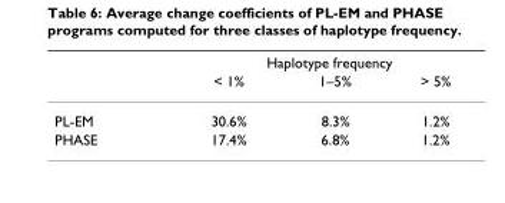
<table><thead><tr><td rowspan="2"></td><td colspan="3">Haplotype frequency</td></tr><tr><td>&lt; 1%</td><td>1–5%</td><td>&gt; 5%</td></tr></thead><tbody><tr><td>PL-EM</td><td>30.6%</td><td>8.3%</td><td>1.2%</td></tr><tr><td>PHASE</td><td>17.4%</td><td>6.8%</td><td>1.2%</td></tr></tbody></table>